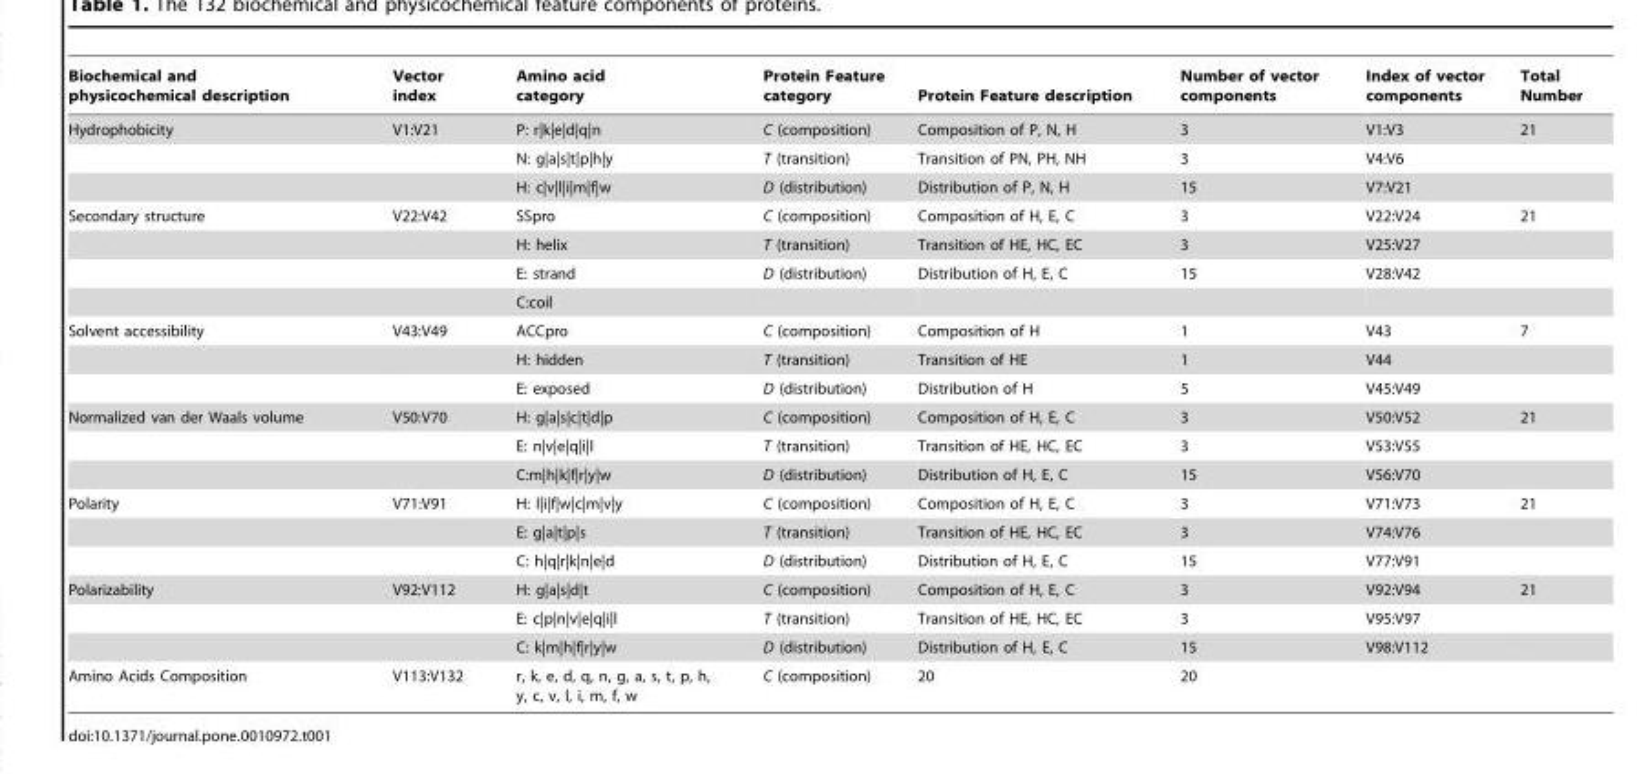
<table><thead><tr><td>Biochemical and physicochemical description</td><td>Vector index</td><td>Amino acid category</td><td>Protein Feature category</td><td>Protein Feature description</td><td>Number of vector components</td><td>Index of vector components</td><td>Total Number</td></tr></thead><tbody><tr><td rowspan="3">Hydrophobicity</td><td>V1:V21</td><td>P: r|k|e|d|q|n</td><td>C (composition)</td><td>Composition of P, N, H</td><td>3</td><td>V1:V3</td><td>21</td></tr><tr><td></td><td>N: g|a|s|t|p|h|y</td><td>T (transition)</td><td>Transition of PN, PH, NH</td><td>3</td><td>V4:V6</td><td></td></tr><tr><td></td><td>H: c|v|l|i|m|f|w</td><td>D (distribution)</td><td>Distribution of P, N, H</td><td>15</td><td>V7:V21</td><td></td></tr><tr><td rowspan="4">Secondary structure</td><td>V22:V42</td><td>SSpro</td><td>C (composition)</td><td>Composition of H, E, C</td><td>3</td><td>V22:V24</td><td>21</td></tr><tr><td></td><td>H: helix</td><td>T (transition)</td><td>Transition of HE, HC, EC</td><td>3</td><td>V25:V27</td><td></td></tr><tr><td></td><td>E: strand</td><td>D (distribution)</td><td>Distribution of H, E, C</td><td>15</td><td>V28:V42</td><td></td></tr><tr><td></td><td>C:coil</td><td></td><td></td><td></td><td></td><td></td></tr><tr><td rowspan="3">Solvent accessibility</td><td>V43:V49</td><td>ACCpro</td><td>C (composition)</td><td>Composition of H</td><td>1</td><td>V43</td><td>7</td></tr><tr><td></td><td>H: hidden</td><td>T (transition)</td><td>Transition of HE</td><td>1</td><td>V44</td><td></td></tr><tr><td></td><td>E: exposed</td><td>D (distribution)</td><td>Distribution of H</td><td>5</td><td>V45:V49</td><td></td></tr><tr><td rowspan="3">Normalized van der Waals volume</td><td>V50:V70</td><td>H: g|a|s|c|t|d|p</td><td>C (composition)</td><td>Composition of H, E, C</td><td>3</td><td>V50:V52</td><td>21</td></tr><tr><td></td><td>E: n|v|e|q|i|l</td><td>T (transition)</td><td>Transition of HE, HC, EC</td><td>3</td><td>V53:V55</td><td></td></tr><tr><td></td><td>C:m|h|k|f|r|y|w</td><td>D (distribution)</td><td>Distribution of H, E, C</td><td>15</td><td>V56:V70</td><td></td></tr><tr><td rowspan="3">Polarity</td><td>V71:V91</td><td>H: l|i|f|w|c|m|v|y</td><td>C (composition)</td><td>Composition of H, E, C</td><td>3</td><td>V71:V73</td><td>21</td></tr><tr><td></td><td>E: g|a|t|p|s</td><td>T (transition)</td><td>Transition of HE, HC, EC</td><td>3</td><td>V74:V76</td><td></td></tr><tr><td></td><td>C: h|q|r|k|n|e|d</td><td>D (distribution)</td><td>Distribution of H, E, C</td><td>15</td><td>V77:V91</td><td></td></tr><tr><td rowspan="3">Polarizability</td><td>V92:V112</td><td>H: g|a|s|d|t</td><td>C (composition)</td><td>Composition of H, E, C</td><td>3</td><td>V92:V94</td><td>21</td></tr><tr><td></td><td>E: c|p|n|v|e|q|i|l</td><td>T (transition)</td><td>Transition of HE, HC, EC</td><td>3</td><td>V95:V97</td><td></td></tr><tr><td></td><td>C: k|m|h|f|r|y|w</td><td>D (distribution)</td><td>Distribution of H, E, C</td><td>15</td><td>V98:V112</td><td></td></tr><tr><td>Amino Acids Composition</td><td>V113:V132</td><td>r, k, e, d, q, n, g, a, s, t, p, h, y, c, v, l, i, m, f, w</td><td>C (composition)</td><td>20</td><td>20</td><td></td><td></td></tr></tbody></table>